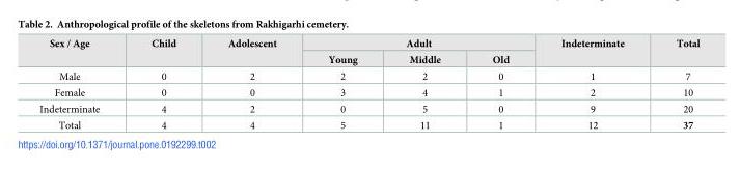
<table><thead><tr><td rowspan="2">Sex / Age</td><td rowspan="2">Child</td><td rowspan="2">Adolescent</td><td colspan="3">Adult</td><td rowspan="2">Indeterminate</td><td rowspan="2">Total</td></tr><tr><td>Young</td><td>Middle</td><td>Old</td></tr></thead><tbody><tr><td>Male</td><td>0</td><td>2</td><td>2</td><td>2</td><td>0</td><td>1</td><td>7</td></tr><tr><td>Female</td><td>0</td><td>0</td><td>3</td><td>4</td><td>1</td><td>2</td><td>10</td></tr><tr><td>Indeterminate</td><td>4</td><td>2</td><td>0</td><td>5</td><td>0</td><td>9</td><td>20</td></tr><tr><td>Total</td><td>4</td><td>4</td><td>5</td><td>11</td><td>1</td><td>12</td><td>37</td></tr></tbody></table>